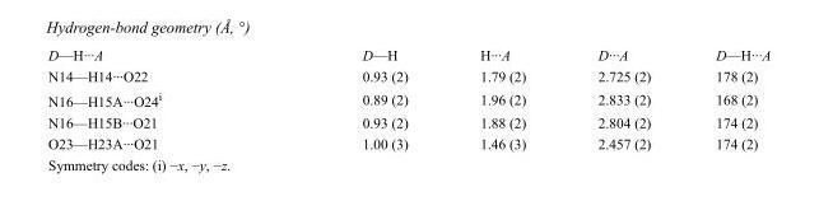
<table><tbody><tr><td>D—H···A</td><td>D—H</td><td>H···A</td><td>D···A</td><td>D—H···A</td></tr><tr><td>N14—H14···O22</td><td>0.93 (2)</td><td>1.79 (2)</td><td>2.725 (2)</td><td>178 (2)</td></tr><tr><td>N16—H15A···O24<sup>i</sup></td><td>0.89 (2)</td><td>1.96 (2)</td><td>2.833 (2)</td><td>168 (2)</td></tr><tr><td>N16—H15B···O21</td><td>0.93 (2)</td><td>1.88 (2)</td><td>2.804 (2)</td><td>174 (2)</td></tr><tr><td>O23—H23A···O21</td><td>1.00 (3)</td><td>1.46 (3)</td><td>2.457 (2)</td><td>174 (2)</td></tr></tbody></table>